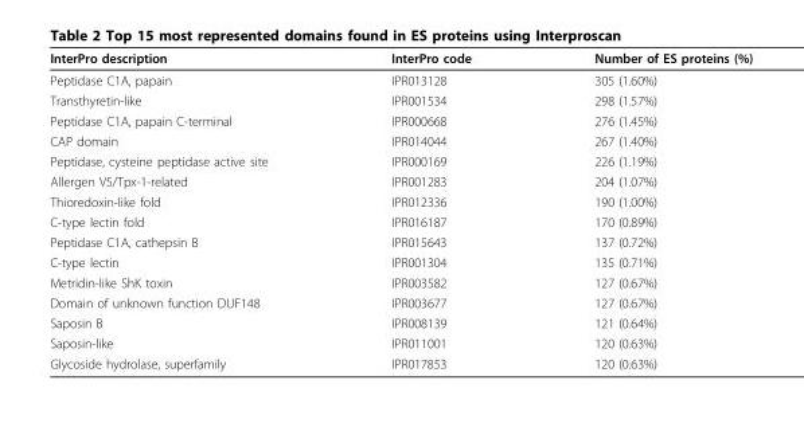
<table><thead><tr><td>InterPro description</td><td>InterPro code</td><td>Number of ES proteins (%)</td></tr></thead><tbody><tr><td>Peptidase C1A, papain</td><td>IPR013128</td><td>305 (1.60%)</td></tr><tr><td>Transthyretin-like</td><td>IPR001534</td><td>298 (1.57%)</td></tr><tr><td>Peptidase C1A, papain C-terminal</td><td>IPR000668</td><td>276 (1.45%)</td></tr><tr><td>CAP domain</td><td>IPR014044</td><td>267 (1.40%)</td></tr><tr><td>Peptidase, cysteine peptidase active site</td><td>IPR000169</td><td>226 (1.19%)</td></tr><tr><td>Allergen V5/Tpx-1-related</td><td>IPR001283</td><td>204 (1.07%)</td></tr><tr><td>Thioredoxin-like fold</td><td>IPR012336</td><td>190 (1.00%)</td></tr><tr><td>C-type lectin fold</td><td>IPR016187</td><td>170 (0.89%)</td></tr><tr><td>Peptidase C1A, cathepsin B</td><td>IPR015643</td><td>137 (0.72%)</td></tr><tr><td>C-type lectin</td><td>IPR001304</td><td>135 (0.71%)</td></tr><tr><td>Metridin-like ShK toxin</td><td>IPR003582</td><td>127 (0.67%)</td></tr><tr><td>Domain of unknown function DUF148</td><td>IPR003677</td><td>127 (0.67%)</td></tr><tr><td>Saposin B</td><td>IPR008139</td><td>121 (0.64%)</td></tr><tr><td>Saposin-like</td><td>IPR011001</td><td>120 (0.63%)</td></tr><tr><td>Glycoside hydrolase, superfamily</td><td>IPR017853</td><td>120 (0.63%)</td></tr></tbody></table>